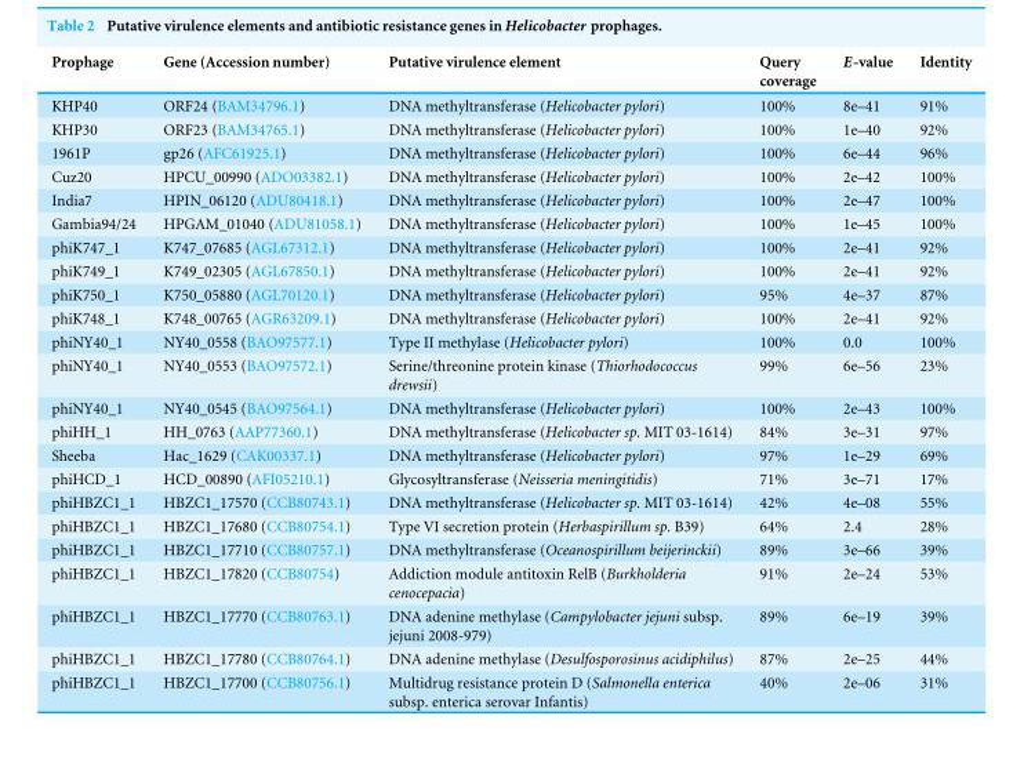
<table><thead><tr><td>Prophage</td><td>Gene (Accession number)</td><td>Putative virulence element</td><td>Query coverage</td><td>E-value</td><td>Identity</td></tr></thead><tbody><tr><td>KHP40</td><td>ORF24 (BAM34796.1)</td><td>DNA methyltransferase (Helicobacter pylori)</td><td>100%</td><td>8e–41</td><td>91%</td></tr><tr><td>KHP30</td><td>ORF23 (BAM34765.1)</td><td>DNA methyltransferase (Helicobacter pylori)</td><td>100%</td><td>1e–40</td><td>92%</td></tr><tr><td>1961P</td><td>gp26 (AFC61925.1)</td><td>DNA methyltransferase (Helicobacter pylori)</td><td>100%</td><td>6e–44</td><td>96%</td></tr><tr><td>Cuz20</td><td>HPCU_00990 (ADO03382.1)</td><td>DNA methyltransferase (Helicobacter pylori)</td><td>100%</td><td>2e–42</td><td>100%</td></tr><tr><td>India7</td><td>HPIN_06120 (ADU80418.1)</td><td>DNA methyltransferase (Helicobacter pylori)</td><td>100%</td><td>2e–47</td><td>100%</td></tr><tr><td>Gambia94/24</td><td>HPGAM_01040 (ADU81058.1)</td><td>DNA methyltransferase (Helicobacter pylori)</td><td>100%</td><td>1e–45</td><td>100%</td></tr><tr><td>phiK747_1</td><td>K747_07685 (AGL67312.1)</td><td>DNA methyltransferase (Helicobacter pylori)</td><td>100%</td><td>2e–41</td><td>92%</td></tr><tr><td>phiK749_1</td><td>K749_02305 (AGL67850.1)</td><td>DNA methyltransferase (Helicobacter pylori)</td><td>100%</td><td>2e–41</td><td>92%</td></tr><tr><td>phiK750_1</td><td>K750_05880 (AGL70120.1)</td><td>DNA methyltransferase (Helicobacter pylori)</td><td>95%</td><td>4e–37</td><td>87%</td></tr><tr><td>phiK748_1</td><td>K748_00765 (AGR63209.1)</td><td>DNA methyltransferase (Helicobacter pylori)</td><td>100%</td><td>2e–41</td><td>92%</td></tr><tr><td>phiNY40_1</td><td>NY40_0558 (BAO97577.1)</td><td>Type II methylase (Helicobacter pylori)</td><td>100%</td><td>0.0</td><td>100%</td></tr><tr><td>phiNY40_1</td><td>NY40_0553 (BAO97572.1)</td><td>Serine/threonine protein kinase (Thiorhodococcus drewsii)</td><td>99%</td><td>6e–56</td><td>23%</td></tr><tr><td>phiNY40_1</td><td>NY40_0545 (BAO97564.1)</td><td>DNA methyltransferase (Helicobacter pylori)</td><td>100%</td><td>2e–43</td><td>100%</td></tr><tr><td>phiHH_1</td><td>HH_0763 (AAP77360.1)</td><td>DNA methyltransferase (Helicobacter sp. MIT 03-1614)</td><td>84%</td><td>3e–31</td><td>97%</td></tr><tr><td>Sheeba</td><td>Hac_1629 (CAK00337.1)</td><td>DNA methyltransferase (Helicobacter pylori)</td><td>97%</td><td>1e–29</td><td>69%</td></tr><tr><td>phiHCD_1</td><td>HCD_00890 (AFI05210.1)</td><td>Glycosyltransferase (Neisseria meningitidis)</td><td>71%</td><td>3e–71</td><td>17%</td></tr><tr><td>phiHBZC1_1</td><td>HBZC1_17570 (CCB80743.1)</td><td>DNA methyltransferase (Helicobacter sp. MIT 03-1614)</td><td>42%</td><td>4e–08</td><td>55%</td></tr><tr><td>phiHBZC1_1</td><td>HBZC1_17680 (CCB80754.1)</td><td>Type VI secretion protein (Herbaspirillum sp. B39)</td><td>64%</td><td>2.4</td><td>28%</td></tr><tr><td>phiHBZC1_1</td><td>HBZC1_17710 (CCB80757.1)</td><td>DNA methyltransferase (Oceanospirillum beijerinckii)</td><td>89%</td><td>3e–66</td><td>39%</td></tr><tr><td>phiHBZC1_1</td><td>HBZC1_17820 (CCB80754)</td><td>Addiction module antitoxin RelB (Burkholderia cenocepacia)</td><td>91%</td><td>2e–24</td><td>53%</td></tr><tr><td>phiHBZC1_1</td><td>HBZC1_17770 (CCB80763.1)</td><td>DNA adenine methylase (Campylobacter jejuni subsp. jejuni 2008-979)</td><td>89%</td><td>6e–19</td><td>39%</td></tr><tr><td>phiHBZC1_1</td><td>HBZC1_17780 (CCB80764.1)</td><td>DNA adenine methylase (Desulfosporosinus acidiphilus)</td><td>87%</td><td>2e–25</td><td>44%</td></tr><tr><td>phiHBZC1_1</td><td>HBZC1_17700 (CCB80756.1)</td><td>Multidrug resistance protein D (Salmonella enterica subsp. enterica serovar Infantis)</td><td>40%</td><td>2e–06</td><td>31%</td></tr></tbody></table>